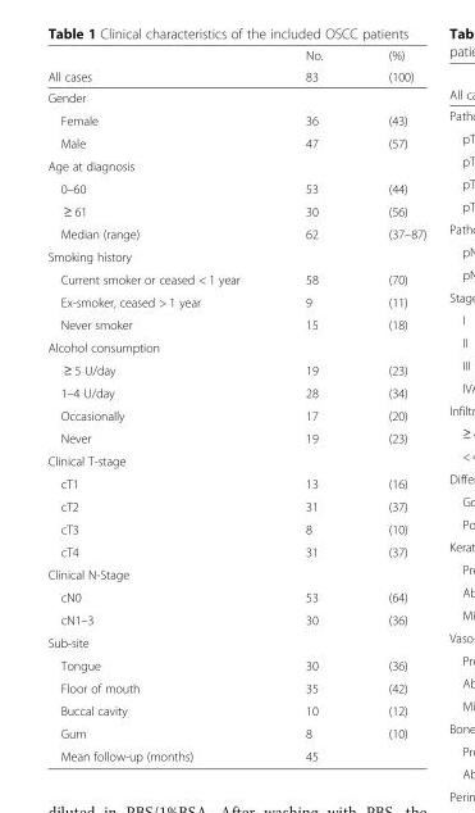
<table><thead><tr><td rowspan="2">All cases</td><td rowspan="2">No. 83</td><td rowspan="2">(%) (100)</td></tr><tr></tr></thead><tbody><tr><td colspan="3">Gender</td></tr><tr><td>Female</td><td>36</td><td>(43)</td></tr><tr><td>Male</td><td>47</td><td>(57)</td></tr><tr><td colspan="3">Age at diagnosis</td></tr><tr><td>0–60</td><td>53</td><td>(44)</td></tr><tr><td>≥ 61</td><td>30</td><td>(56)</td></tr><tr><td>Median (range)</td><td>62</td><td>(37–87)</td></tr><tr><td colspan="3">Smoking history</td></tr><tr><td>Current smoker or ceased &lt; 1 year</td><td>58</td><td>(70)</td></tr><tr><td>Ex-smoker, ceased &gt; 1 year</td><td>9</td><td>(11)</td></tr><tr><td>Never smoker</td><td>15</td><td>(18)</td></tr><tr><td colspan="3">Alcohol consumption</td></tr><tr><td>≥ 5 U/day</td><td>19</td><td>(23)</td></tr><tr><td>1–4 U/day</td><td>28</td><td>(34)</td></tr><tr><td>Occasionally</td><td>17</td><td>(20)</td></tr><tr><td>Never</td><td>19</td><td>(23)</td></tr><tr><td colspan="3">Clinical T-stage</td></tr><tr><td>cT1</td><td>13</td><td>(16)</td></tr><tr><td>cT2</td><td>31</td><td>(37)</td></tr><tr><td>cT3</td><td>8</td><td>(10)</td></tr><tr><td>cT4</td><td>31</td><td>(37)</td></tr><tr><td colspan="3">Clinical N-Stage</td></tr><tr><td>cN0</td><td>53</td><td>(64)</td></tr><tr><td>cN1–3</td><td>30</td><td>(36)</td></tr><tr><td colspan="3">Sub-site</td></tr><tr><td>Tongue</td><td>30</td><td>(36)</td></tr><tr><td>Floor of mouth</td><td>35</td><td>(42)</td></tr><tr><td>Buccal cavity</td><td>10</td><td>(12)</td></tr><tr><td>Gum</td><td>8</td><td>(10)</td></tr><tr><td>Mean follow-up (months)</td><td>45</td><td></td></tr></tbody></table>